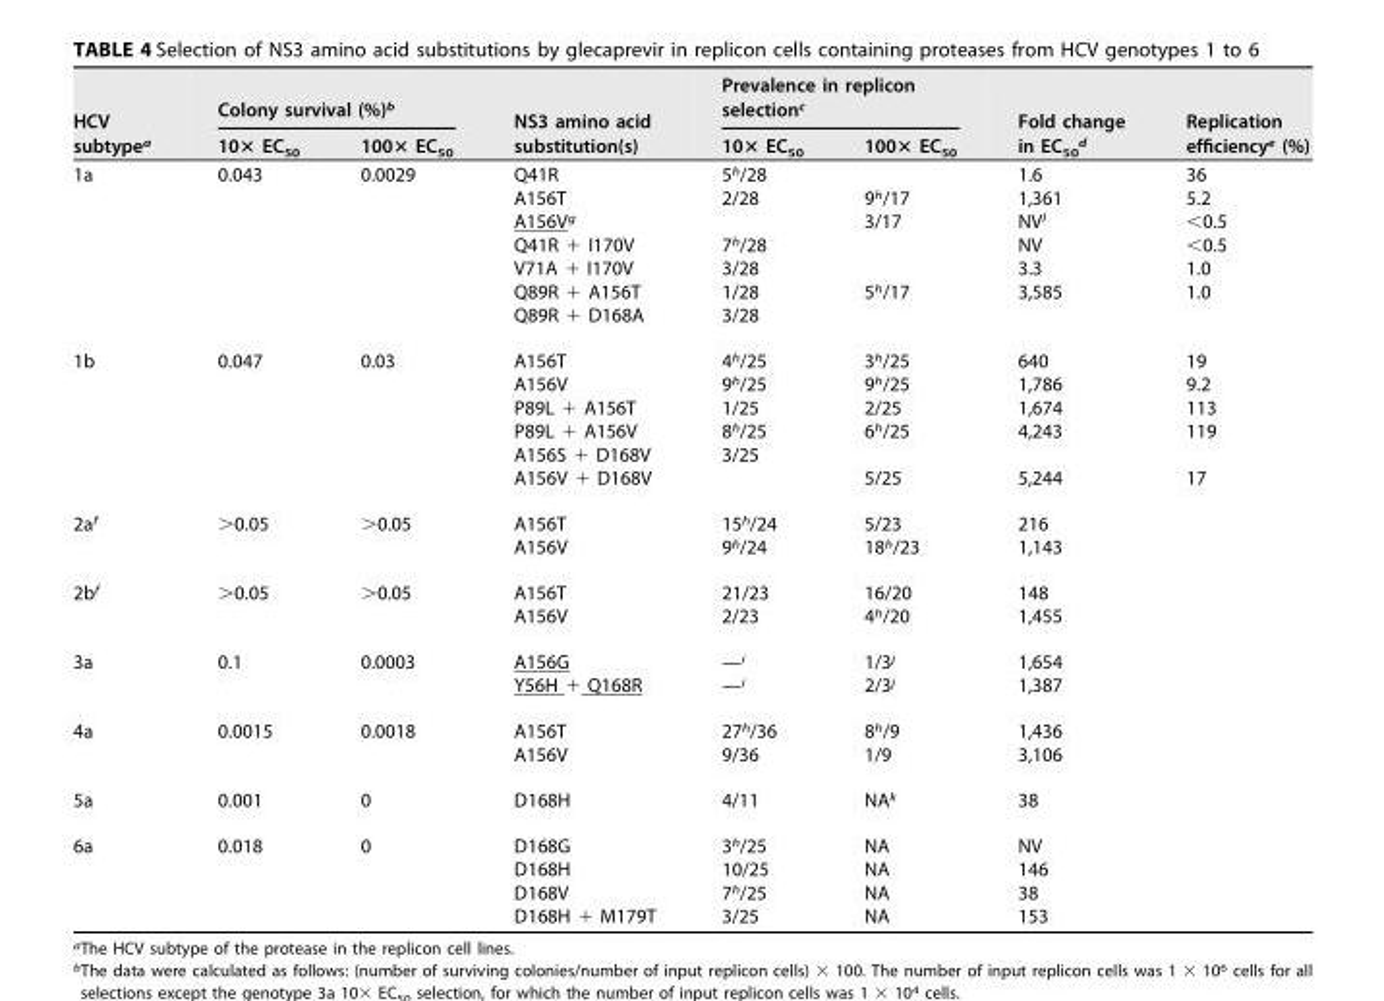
<table><thead><tr><td rowspan="2">HCV subtype<sup>a</sup></td><td colspan="2">Colony survival (%)<sup>b</sup></td><td rowspan="2">NS3 amino acid substitution(s)</td><td colspan="2">Prevalence in replicon selection<sup>c</sup></td><td rowspan="2">Fold change in EC<sub>50</sub><sup>d</sup></td><td rowspan="2">Replication efficiency<sup>e</sup> (%)</td></tr><tr><td>10× EC<sub>50</sub></td><td>100× EC<sub>50</sub></td><td>10× EC<sub>50</sub></td><td>100× EC<sub>50</sub></td></tr></thead><tbody><tr><td rowspan="7">1a</td><td>0.043</td><td>0.0029</td><td>Q41R</td><td>5<sup>h</sup>/28</td><td></td><td>1.6</td><td>36</td></tr><tr><td></td><td></td><td>A156T</td><td>2/28</td><td>9<sup>h</sup>/17</td><td>1,361</td><td>5.2</td></tr><tr><td></td><td></td><td>A156V<sup>g</sup></td><td></td><td>3/17</td><td>NV<sup>l</sup></td><td>&lt;0.5</td></tr><tr><td></td><td></td><td>Q41R + I170V</td><td>7<sup>h</sup>/28</td><td></td><td>NV</td><td>&lt;0.5</td></tr><tr><td></td><td></td><td>V71A + I170V</td><td>3/28</td><td></td><td>3.3</td><td>1.0</td></tr><tr><td></td><td></td><td>Q89R + A156T</td><td>1/28</td><td>5<sup>h</sup>/17</td><td>3,585</td><td>1.0</td></tr><tr><td></td><td></td><td>Q89R + D168A</td><td>3/28</td><td></td><td></td><td></td></tr><tr><td rowspan="6">1b</td><td>0.047</td><td>0.03</td><td>A156T</td><td>4<sup>h</sup>/25</td><td>3<sup>h</sup>/25</td><td>640</td><td>19</td></tr><tr><td></td><td></td><td>A156V</td><td>9<sup>h</sup>/25</td><td>9<sup>h</sup>/25</td><td>1,786</td><td>9.2</td></tr><tr><td></td><td></td><td>P89L + A156T</td><td>1/25</td><td>2/25</td><td>1,674</td><td>113</td></tr><tr><td></td><td></td><td>P89L + A156V</td><td>8<sup>h</sup>/25</td><td>6<sup>h</sup>/25</td><td>4,243</td><td>119</td></tr><tr><td></td><td></td><td>A156S + D168V</td><td>3/25</td><td></td><td></td><td></td></tr><tr><td></td><td></td><td>A156V + D168V</td><td></td><td>5/25</td><td>5,244</td><td>17</td></tr><tr><td rowspan="2">2a<sup>f</sup></td><td>&gt;0.05</td><td>&gt;0.05</td><td>A156T</td><td>15<sup>h</sup>/24</td><td>5/23</td><td>216</td><td></td></tr><tr><td></td><td></td><td>A156V</td><td>9<sup>h</sup>/24</td><td>18<sup>h</sup>/23</td><td>1,143</td><td></td></tr><tr><td rowspan="2">2b<sup>f</sup></td><td>&gt;0.05</td><td>&gt;0.05</td><td>A156T</td><td>21/23</td><td>16/20</td><td>148</td><td></td></tr><tr><td></td><td></td><td>A156V</td><td>2/23</td><td>4<sup>h</sup>/20</td><td>1,455</td><td></td></tr><tr><td rowspan="2">3a</td><td>0.1</td><td>0.0003</td><td>A156G</td><td>—<sup>i</sup></td><td>1/3<sup>j</sup></td><td>1,654</td><td></td></tr><tr><td></td><td></td><td>Y56H + Q168R</td><td>—<sup>i</sup></td><td>2/3<sup>j</sup></td><td>1,387</td><td></td></tr><tr><td rowspan="2">4a</td><td>0.0015</td><td>0.0018</td><td>A156T</td><td>27<sup>h</sup>/36</td><td>8<sup>h</sup>/9</td><td>1,436</td><td></td></tr><tr><td></td><td></td><td>A156V</td><td>9/36</td><td>1/9</td><td>3,106</td><td></td></tr><tr><td>5a</td><td>0.001</td><td>0</td><td>D168H</td><td>4/11</td><td>NA<sup>k</sup></td><td>38</td><td></td></tr><tr><td rowspan="4">6a</td><td>0.018</td><td>0</td><td>D168G</td><td>3<sup>h</sup>/25</td><td>NA</td><td>NV</td><td></td></tr><tr><td></td><td></td><td>D168H</td><td>10/25</td><td>NA</td><td>146</td><td></td></tr><tr><td></td><td></td><td>D168V</td><td>7<sup>h</sup>/25</td><td>NA</td><td>38</td><td></td></tr><tr><td></td><td></td><td>D168H + M179T</td><td>3/25</td><td>NA</td><td>153</td><td></td></tr></tbody></table>